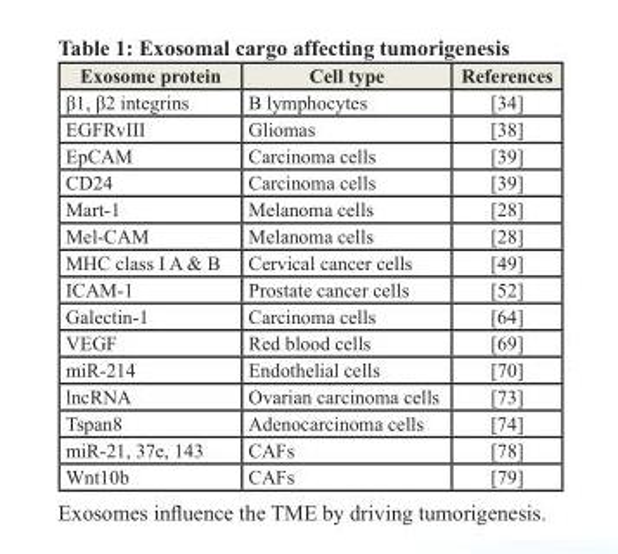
<table><thead><tr><td>Exosome protein</td><td>Cell type</td><td>References</td></tr></thead><tbody><tr><td>β1, β2 integrins</td><td>B lymphocytes</td><td>[34]</td></tr><tr><td>EGFRvIII</td><td>Gliomas</td><td>[38]</td></tr><tr><td>EpCAM</td><td>Carcinoma cells</td><td>[39]</td></tr><tr><td>CD24</td><td>Carcinoma cells</td><td>[39]</td></tr><tr><td>Mart-1</td><td>Melanoma cells</td><td>[28]</td></tr><tr><td>Mel-CAM</td><td>Melanoma cells</td><td>[28]</td></tr><tr><td>MHC class I A &amp; B</td><td>Cervical cancer cells</td><td>[49]</td></tr><tr><td>ICAM-1</td><td>Prostate cancer cells</td><td>[52]</td></tr><tr><td>Galectin-1</td><td>Carcinoma cells</td><td>[64]</td></tr><tr><td>VEGF</td><td>Red blood cells</td><td>[69]</td></tr><tr><td>miR-214</td><td>Endothelial cells</td><td>[70]</td></tr><tr><td>lncRNA</td><td>Ovarian carcinoma cells</td><td>[73]</td></tr><tr><td>Tspan8</td><td>Adenocarcinoma cells</td><td>[74]</td></tr><tr><td>miR-21, 37e, 143</td><td>CAFs</td><td>[78]</td></tr><tr><td>Wnt10b</td><td>CAFs</td><td>[79]</td></tr></tbody></table>